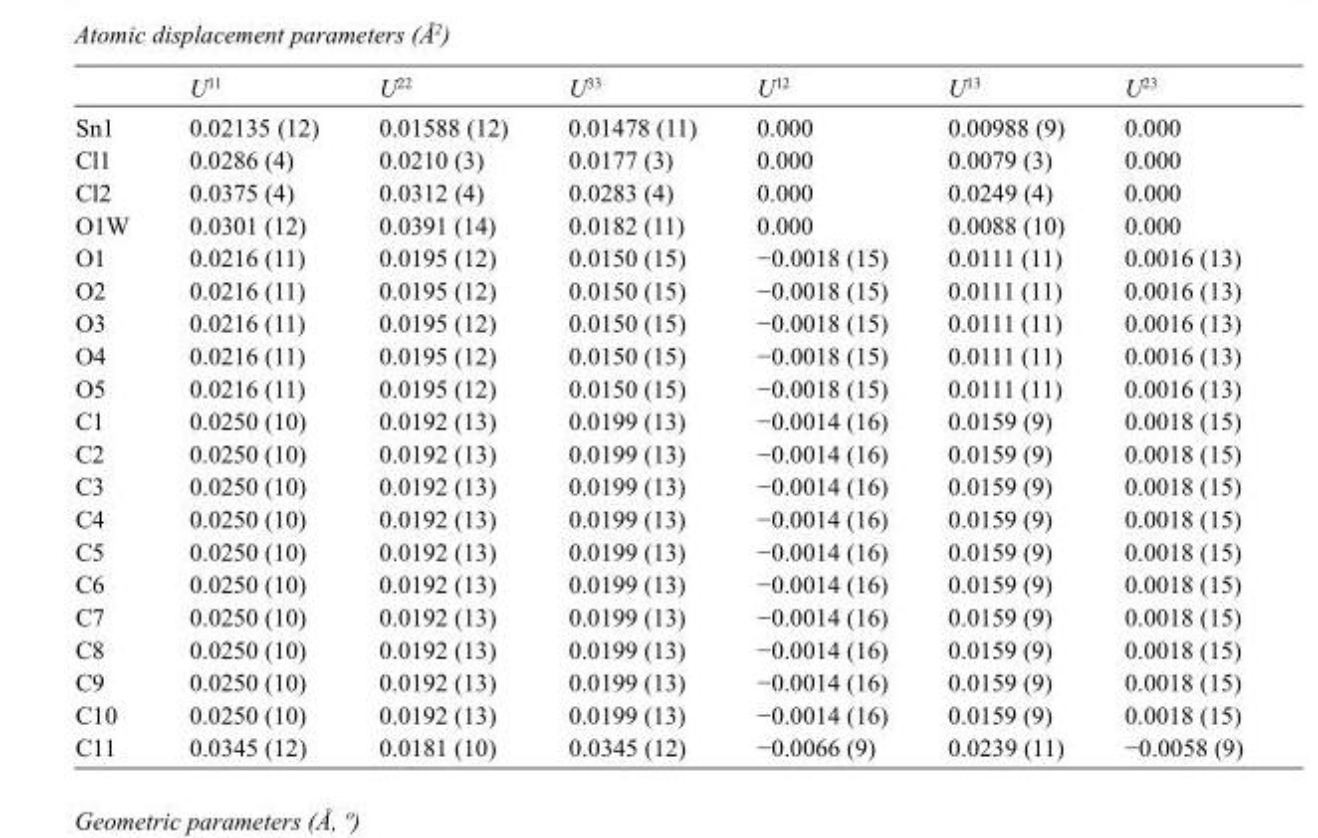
<table><thead><tr><td></td><td>U<sup>11</sup></td><td>U<sup>22</sup></td><td>U<sup>33</sup></td><td>U<sup>12</sup></td><td>U<sup>13</sup></td><td>U<sup>23</sup></td></tr></thead><tbody><tr><td>Sn1</td><td>0.02135 (12)</td><td>0.01588 (12)</td><td>0.01478 (11)</td><td>0.000</td><td>0.00988 (9)</td><td>0.000</td></tr><tr><td>Cl1</td><td>0.0286 (4)</td><td>0.0210 (3)</td><td>0.0177 (3)</td><td>0.000</td><td>0.0079 (3)</td><td>0.000</td></tr><tr><td>Cl2</td><td>0.0375 (4)</td><td>0.0312 (4)</td><td>0.0283 (4)</td><td>0.000</td><td>0.0249 (4)</td><td>0.000</td></tr><tr><td>O1W</td><td>0.0301 (12)</td><td>0.0391 (14)</td><td>0.0182 (11)</td><td>0.000</td><td>0.0088 (10)</td><td>0.000</td></tr><tr><td>O1</td><td>0.0216 (11)</td><td>0.0195 (12)</td><td>0.0150 (15)</td><td>−0.0018 (15)</td><td>0.0111 (11)</td><td>0.0016 (13)</td></tr><tr><td>O2</td><td>0.0216 (11)</td><td>0.0195 (12)</td><td>0.0150 (15)</td><td>−0.0018 (15)</td><td>0.0111 (11)</td><td>0.0016 (13)</td></tr><tr><td>O3</td><td>0.0216 (11)</td><td>0.0195 (12)</td><td>0.0150 (15)</td><td>−0.0018 (15)</td><td>0.0111 (11)</td><td>0.0016 (13)</td></tr><tr><td>O4</td><td>0.0216 (11)</td><td>0.0195 (12)</td><td>0.0150 (15)</td><td>−0.0018 (15)</td><td>0.0111 (11)</td><td>0.0016 (13)</td></tr><tr><td>O5</td><td>0.0216 (11)</td><td>0.0195 (12)</td><td>0.0150 (15)</td><td>−0.0018 (15)</td><td>0.0111 (11)</td><td>0.0016 (13)</td></tr><tr><td>C1</td><td>0.0250 (10)</td><td>0.0192 (13)</td><td>0.0199 (13)</td><td>−0.0014 (16)</td><td>0.0159 (9)</td><td>0.0018 (15)</td></tr><tr><td>C2</td><td>0.0250 (10)</td><td>0.0192 (13)</td><td>0.0199 (13)</td><td>−0.0014 (16)</td><td>0.0159 (9)</td><td>0.0018 (15)</td></tr><tr><td>C3</td><td>0.0250 (10)</td><td>0.0192 (13)</td><td>0.0199 (13)</td><td>−0.0014 (16)</td><td>0.0159 (9)</td><td>0.0018 (15)</td></tr><tr><td>C4</td><td>0.0250 (10)</td><td>0.0192 (13)</td><td>0.0199 (13)</td><td>−0.0014 (16)</td><td>0.0159 (9)</td><td>0.0018 (15)</td></tr><tr><td>C5</td><td>0.0250 (10)</td><td>0.0192 (13)</td><td>0.0199 (13)</td><td>−0.0014 (16)</td><td>0.0159 (9)</td><td>0.0018 (15)</td></tr><tr><td>C6</td><td>0.0250 (10)</td><td>0.0192 (13)</td><td>0.0199 (13)</td><td>−0.0014 (16)</td><td>0.0159 (9)</td><td>0.0018 (15)</td></tr><tr><td>C7</td><td>0.0250 (10)</td><td>0.0192 (13)</td><td>0.0199 (13)</td><td>−0.0014 (16)</td><td>0.0159 (9)</td><td>0.0018 (15)</td></tr><tr><td>C8</td><td>0.0250 (10)</td><td>0.0192 (13)</td><td>0.0199 (13)</td><td>−0.0014 (16)</td><td>0.0159 (9)</td><td>0.0018 (15)</td></tr><tr><td>C9</td><td>0.0250 (10)</td><td>0.0192 (13)</td><td>0.0199 (13)</td><td>−0.0014 (16)</td><td>0.0159 (9)</td><td>0.0018 (15)</td></tr><tr><td>C10</td><td>0.0250 (10)</td><td>0.0192 (13)</td><td>0.0199 (13)</td><td>−0.0014 (16)</td><td>0.0159 (9)</td><td>0.0018 (15)</td></tr><tr><td>C11</td><td>0.0345 (12)</td><td>0.0181 (10)</td><td>0.0345 (12)</td><td>−0.0066 (9)</td><td>0.0239 (11)</td><td>−0.0058 (9)</td></tr></tbody></table>